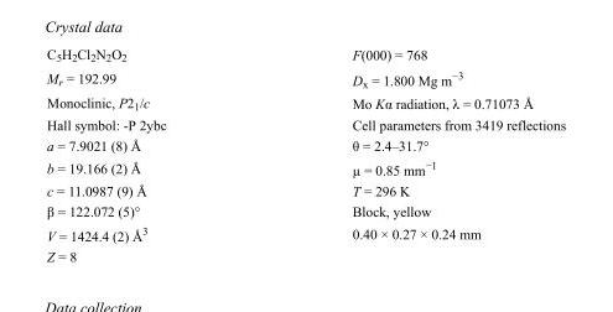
<table><tbody><tr><td>C<sub>5</sub>H<sub>2</sub>Cl<sub>2</sub>N<sub>2</sub>O<sub>2</sub></td><td>F(000) = 768</td></tr><tr><td>M<sub>r</sub> = 192.99</td><td>D<sub>x</sub> = 1.800 Mg m<sup>−3</sup></td></tr><tr><td>Monoclinic, P2<sub>1</sub>/c</td><td>Mo Kα radiation, λ = 0.71073 Å</td></tr><tr><td>Hall symbol: -P 2ybc</td><td>Cell parameters from 3419 reflections</td></tr><tr><td>a = 7.9021 (8) Å</td><td>θ = 2.4–31.7°</td></tr><tr><td>b = 19.166 (2) Å</td><td>µ = 0.85 mm<sup>−1</sup></td></tr><tr><td>c = 11.0987 (9) Å</td><td>T = 296 K</td></tr><tr><td>β = 122.072 (5)°</td><td>Block, yellow</td></tr><tr><td>V = 1424.4 (2) Å<sup>3</sup></td><td>0.40 × 0.27 × 0.24 mm</td></tr><tr><td>Z = 8</td><td></td></tr></tbody></table>